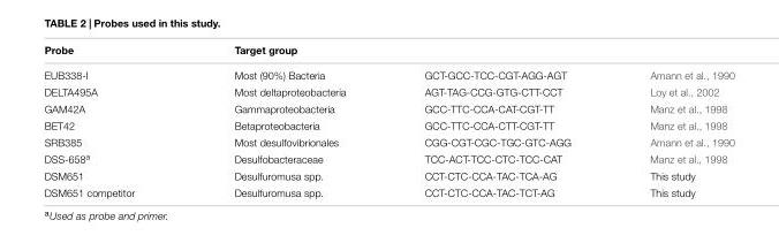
<table><thead><tr><td>Probe</td><td>Target group</td><td></td><td></td></tr></thead><tbody><tr><td>EUB338-I</td><td>Most (90%) Bacteria</td><td>GCT-GCC-TCC-CGT-AGG-AGT</td><td>Amann et al., 1990</td></tr><tr><td>DELTA495A</td><td>Most deltaproteobacteria</td><td>AGT-TAG-CCG-GTG-CTT-CCT</td><td>Loy et al., 2002</td></tr><tr><td>GAM42A</td><td>Gammaproteobacteria</td><td>GCC-TTC-CCA-CAT-CGT-TT</td><td>Manz et al., 1998</td></tr><tr><td>BET42</td><td>Betaproteobacteria</td><td>GCC-TTC-CCA-CTT-CGT-TT</td><td>Manz et al., 1998</td></tr><tr><td>SRB385</td><td>Most desulfovibrionales</td><td>CGG-CGT-CGC-TGC-GTC-AGG</td><td>Amann et al., 1990</td></tr><tr><td>DSS-658<sup>a</sup></td><td>Desulfobacteraceae</td><td>TCC-ACT-TCC-CTC-TCC-CAT</td><td>Manz et al., 1998</td></tr><tr><td>DSM651</td><td>Desulfuromusa spp.</td><td>CCT-CTC-CCA-TAC-TCA-AG</td><td>This study</td></tr><tr><td>DSM651 competitor</td><td>Desulfuromusa spp.</td><td>CCT-CTC-CCA-TAC-TCT-AG</td><td>This study</td></tr></tbody></table>